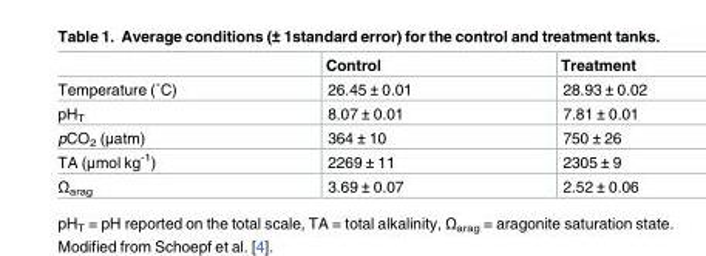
<table><thead><tr><td></td><td>Control</td><td>Treatment</td></tr></thead><tbody><tr><td>Temperature (˚C)</td><td>26.45 ± 0.01</td><td>28.93 ± 0.02</td></tr><tr><td>pH<sub>T</sub></td><td>8.07 ± 0.01</td><td>7.81 ± 0.01</td></tr><tr><td>pCO<sub>2</sub> (μatm)</td><td>364 ± 10</td><td>750 ± 26</td></tr><tr><td>TA (μmol kg<sup>-1</sup>)</td><td>2269 ± 11</td><td>2305 ± 9</td></tr><tr><td>Ω<sub>arag</sub></td><td>3.69 ± 0.07</td><td>2.52 ± 0.06</td></tr></tbody></table>